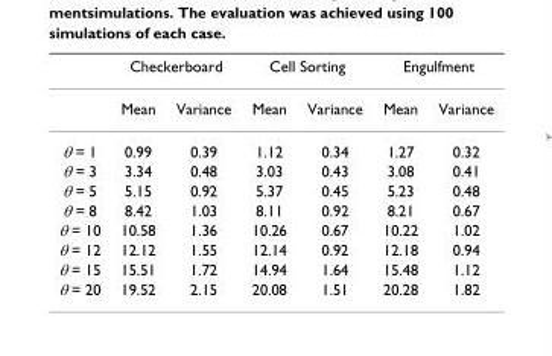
<table><thead><tr><td rowspan="2"></td><td colspan="2">Checkerboard</td><td colspan="2">Cell Sorting</td><td colspan="2">Engulfment</td></tr><tr><td>Mean</td><td>Variance</td><td>Mean</td><td>Variance</td><td>Mean</td><td>Variance</td></tr></thead><tbody><tr><td>θ = 1</td><td>0.99</td><td>0.39</td><td>1.12</td><td>0.34</td><td>1.27</td><td>0.32</td></tr><tr><td>θ = 3</td><td>3.34</td><td>0.48</td><td>3.03</td><td>0.43</td><td>3.08</td><td>0.41</td></tr><tr><td>θ = 5</td><td>5.15</td><td>0.92</td><td>5.37</td><td>0.45</td><td>5.23</td><td>0.48</td></tr><tr><td>θ = 8</td><td>8.42</td><td>1.03</td><td>8.11</td><td>0.92</td><td>8.21</td><td>0.67</td></tr><tr><td>θ = 10</td><td>10.58</td><td>1.36</td><td>10.26</td><td>0.67</td><td>10.22</td><td>1.02</td></tr><tr><td>θ = 12</td><td>12.12</td><td>1.55</td><td>12.14</td><td>0.92</td><td>12.18</td><td>0.94</td></tr><tr><td>θ = 15</td><td>15.51</td><td>1.72</td><td>14.94</td><td>1.64</td><td>15.48</td><td>1.12</td></tr><tr><td>θ = 20</td><td>19.52</td><td>2.15</td><td>20.08</td><td>1.51</td><td>20.28</td><td>1.82</td></tr></tbody></table>